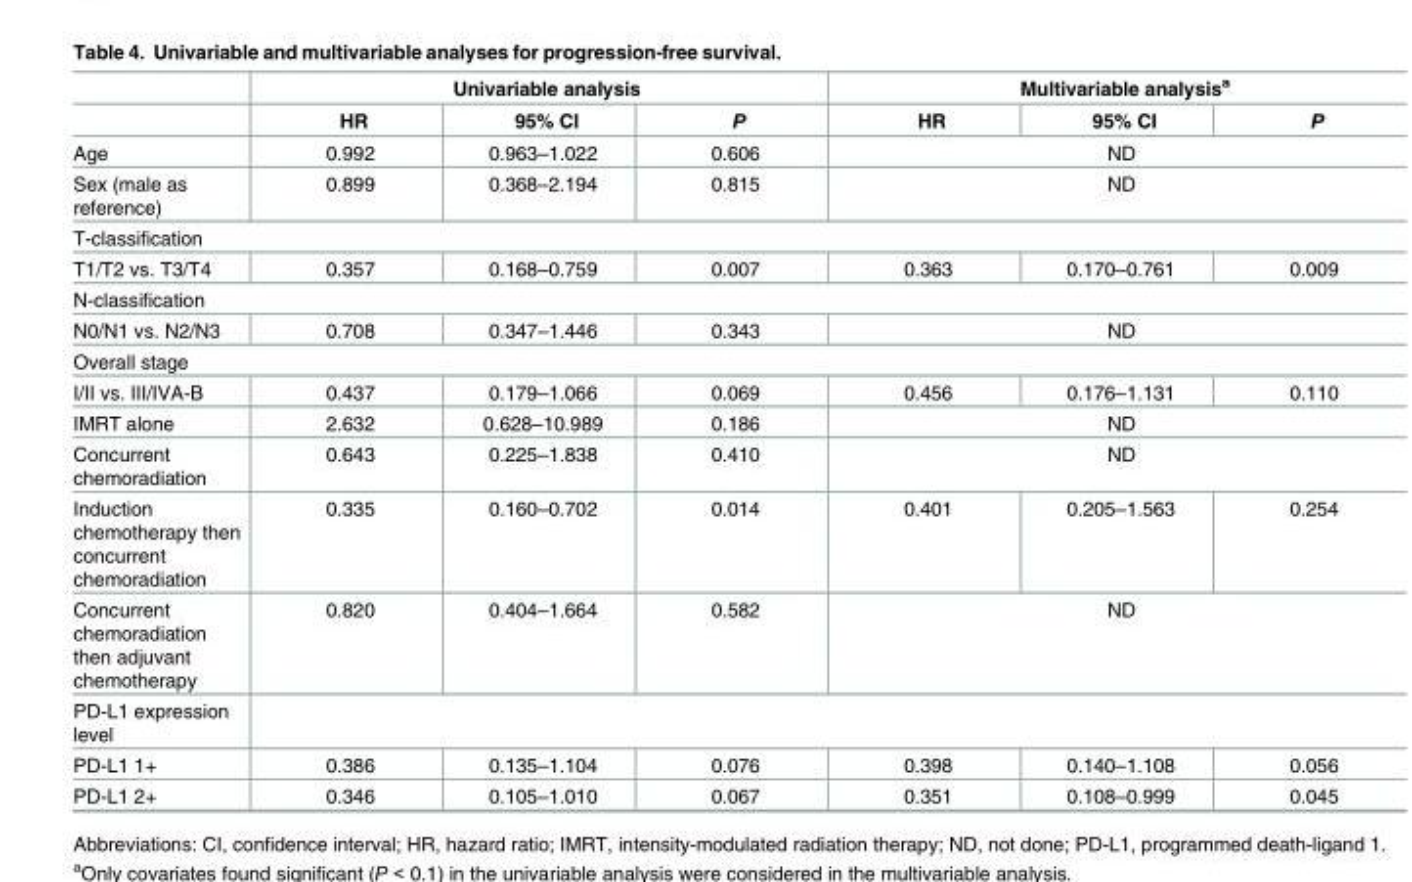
<table><thead><tr><td rowspan="2"></td><td colspan="3">Univariable analysis</td><td colspan="3">Multivariable analysis<sup>a</sup></td></tr><tr><td>HR</td><td>95% CI</td><td>P</td><td>HR</td><td>95% CI</td><td>P</td></tr></thead><tbody><tr><td>Age</td><td>0.992</td><td>0.963–1.022</td><td>0.606</td><td colspan="3">ND</td></tr><tr><td>Sex (male as reference)</td><td>0.899</td><td>0.368–2.194</td><td>0.815</td><td colspan="3">ND</td></tr><tr><td colspan="7">T-classification</td></tr><tr><td>T1/T2 vs. T3/T4</td><td>0.357</td><td>0.168–0.759</td><td>0.007</td><td>0.363</td><td>0.170–0.761</td><td>0.009</td></tr><tr><td colspan="7">N-classification</td></tr><tr><td>N0/N1 vs. N2/N3</td><td>0.708</td><td>0.347–1.446</td><td>0.343</td><td colspan="3">ND</td></tr><tr><td colspan="7">Overall stage</td></tr><tr><td>I/II vs. III/IVA-B</td><td>0.437</td><td>0.179–1.066</td><td>0.069</td><td>0.456</td><td>0.176–1.131</td><td>0.110</td></tr><tr><td>IMRT alone</td><td>2.632</td><td>0.628–10.989</td><td>0.186</td><td colspan="3">ND</td></tr><tr><td>Concurrent chemoradiation</td><td>0.643</td><td>0.225–1.838</td><td>0.410</td><td colspan="3">ND</td></tr><tr><td>Induction chemotherapy then concurrent chemoradiation</td><td>0.335</td><td>0.160–0.702</td><td>0.014</td><td>0.401</td><td>0.205–1.563</td><td>0.254</td></tr><tr><td>Concurrent chemoradiation then adjuvant chemotherapy</td><td>0.820</td><td>0.404–1.664</td><td>0.582</td><td colspan="3">ND</td></tr><tr><td colspan="7">PD-L1 expression level</td></tr><tr><td>PD-L1 1+</td><td>0.386</td><td>0.135–1.104</td><td>0.076</td><td>0.398</td><td>0.140–1.108</td><td>0.056</td></tr><tr><td>PD-L1 2+</td><td>0.346</td><td>0.105–1.010</td><td>0.067</td><td>0.351</td><td>0.108–0.999</td><td>0.045</td></tr></tbody></table>